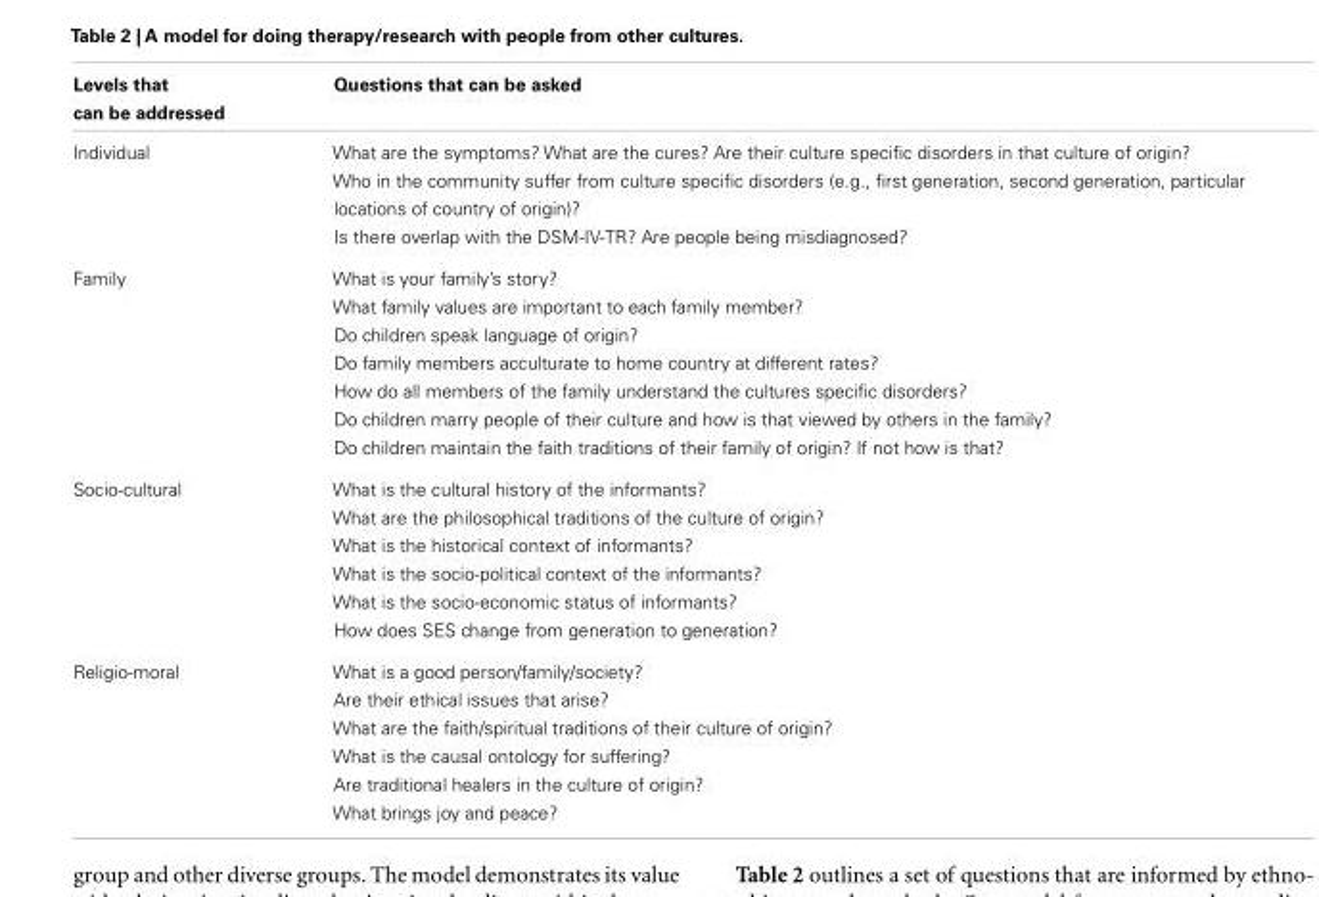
<table><thead><tr><td>Levels that can be addressed</td><td>Questions that can be asked</td></tr></thead><tbody><tr><td>Individual</td><td>What are the symptoms? What are the cures? Are their culture specific disorders in that culture of origin? Who in the community suffer from culture specific disorders (e.g., first generation, second generation, particular locations of country of origin)? Is there overlap with the DSM-IV-TR? Are people being misdiagnosed?</td></tr><tr><td>Family</td><td>What is your family’s story? What family values are important to each family member? Do children speak language of origin? Do family members acculturate to home country at different rates? How do all members of the family understand the cultures specific disorders? Do children marry people of their culture and how is that viewed by others in the family? Do children maintain the faith traditions of their family of origin? If not how is that?</td></tr><tr><td>Socio-cultural</td><td>What is the cultural history of the informants? What are the philosophical traditions of the culture of origin? What is the historical context of informants? What is the socio-political context of the informants? What is the socio-economic status of informants? How does SES change from generation to generation?</td></tr><tr><td>Religio-moral</td><td>What is a good person/family/society? Are their ethical issues that arise? What are the faith/spiritual traditions of their culture of origin? What is the causal ontology for suffering? Are traditional healers in the culture of origin? What brings joy and peace?</td></tr></tbody></table>